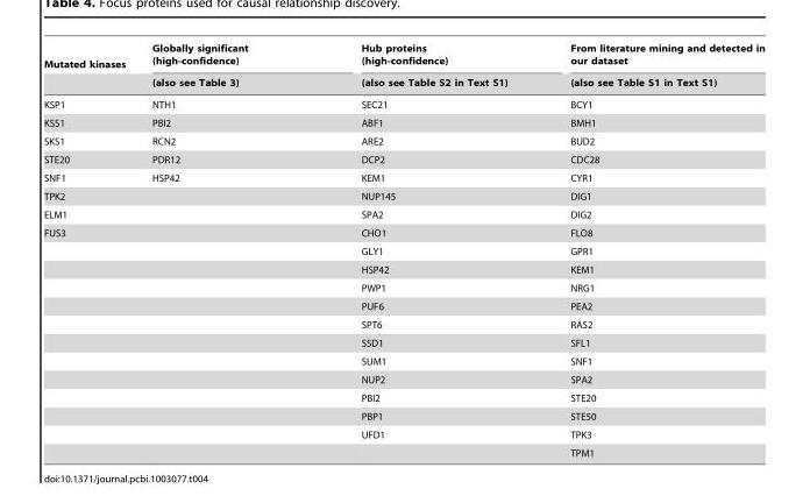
<table><thead><tr><td rowspan="2">Mutated kinases</td><td rowspan="2">Globally significant (high-confidence) (also see Table 3)</td><td rowspan="2">Hub proteins (high-confidence) (also see Table S2 in Text S1)</td><td rowspan="2">From literature mining and detected in our dataset (also see Table S1 in Text S1)</td></tr><tr></tr></thead><tbody><tr><td>KSP1</td><td>NTH1</td><td>SEC21</td><td>BCY1</td></tr><tr><td>KSS1</td><td>PBI2</td><td>ABF1</td><td>BMH1</td></tr><tr><td>SKS1</td><td>RCN2</td><td>ARE2</td><td>BUD2</td></tr><tr><td>STE20</td><td>PDR12</td><td>DCP2</td><td>CDC28</td></tr><tr><td>SNF1</td><td>HSP42</td><td>KEM1</td><td>CYR1</td></tr><tr><td>TPK2</td><td></td><td>NUP145</td><td>DIG1</td></tr><tr><td>ELM1</td><td></td><td>SPA2</td><td>DIG2</td></tr><tr><td rowspan="13">FUS3</td><td></td><td>CHO1</td><td>FLO8</td></tr><tr><td></td><td>GLY1</td><td>GPR1</td></tr><tr><td></td><td>HSP42</td><td>KEM1</td></tr><tr><td></td><td>PWP1</td><td>NRG1</td></tr><tr><td></td><td>PUF6</td><td>PEA2</td></tr><tr><td></td><td>SPT6</td><td>RAS2</td></tr><tr><td></td><td>SSD1</td><td>SFL1</td></tr><tr><td></td><td>SUM1</td><td>SNF1</td></tr><tr><td></td><td>NUP2</td><td>SPA2</td></tr><tr><td></td><td>PBI2</td><td>STE20</td></tr><tr><td></td><td>PBP1</td><td>STE50</td></tr><tr><td></td><td>UFD1</td><td>TPK3</td></tr><tr><td></td><td></td><td>TPM1</td></tr></tbody></table>